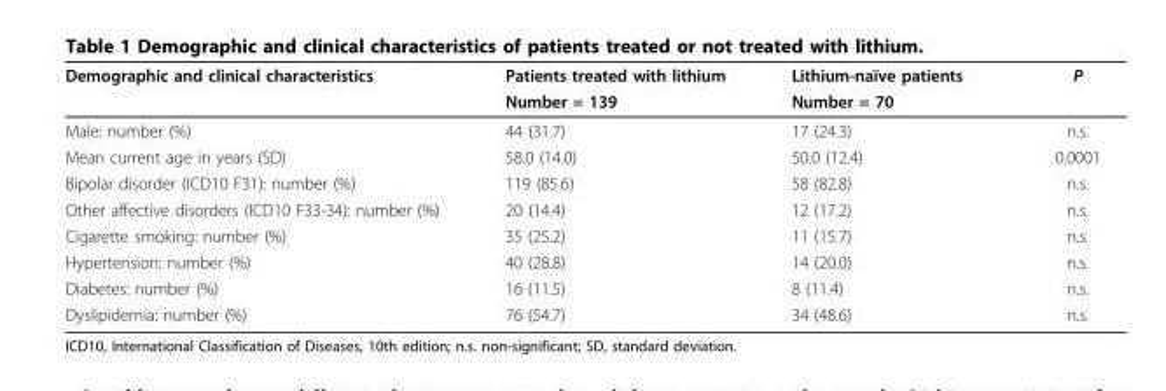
<table><thead><tr><td rowspan="2">Demographic and clinical characteristics</td><td rowspan="2">Patients treated with lithium Number = 139</td><td rowspan="2">Lithium-naïve patients Number = 70</td><td rowspan="2">P</td></tr><tr></tr></thead><tbody><tr><td>Male: number (%)</td><td>44 (31.7)</td><td>17 (24.3)</td><td>n.s.</td></tr><tr><td>Mean current age in years (SD)</td><td>58.0 (14.0)</td><td>50.0 (12.4)</td><td>0.0001</td></tr><tr><td>Bipolar disorder (ICD10 F31): number (%)</td><td>119 (85.6)</td><td>58 (82.8)</td><td>n.s.</td></tr><tr><td>Other affective disorders (ICD10 F33-34): number (%)</td><td>20 (14.4)</td><td>12 (17.2)</td><td>n.s.</td></tr><tr><td>Cigarette smoking: number (%)</td><td>35 (25.2)</td><td>11 (15.7)</td><td>n.s.</td></tr><tr><td>Hypertension: number (%)</td><td>40 (28.8)</td><td>14 (20.0)</td><td>n.s.</td></tr><tr><td>Diabetes: number (%)</td><td>16 (11.5)</td><td>8 (11.4)</td><td>n.s.</td></tr><tr><td>Dyslipidemia: number (%)</td><td>76 (54.7)</td><td>34 (48.6)</td><td>n.s.</td></tr></tbody></table>